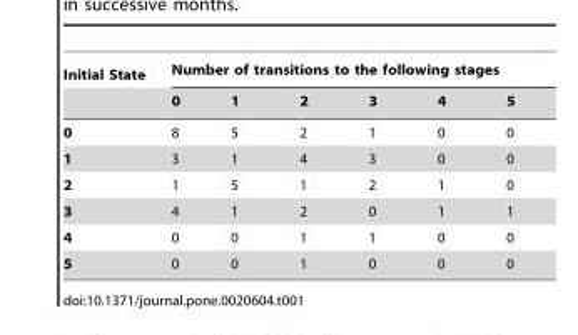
<table><thead><tr><td rowspan="2">Initial State</td><td colspan="6">Number of transitions to the following stages</td></tr><tr><td>0</td><td>1</td><td>2</td><td>3</td><td>4</td><td>5</td></tr></thead><tbody><tr><td>0</td><td>8</td><td>5</td><td>2</td><td>1</td><td>0</td><td>0</td></tr><tr><td>1</td><td>3</td><td>1</td><td>4</td><td>3</td><td>0</td><td>0</td></tr><tr><td>2</td><td>1</td><td>5</td><td>1</td><td>2</td><td>1</td><td>0</td></tr><tr><td>3</td><td>4</td><td>1</td><td>2</td><td>0</td><td>1</td><td>1</td></tr><tr><td>4</td><td>0</td><td>0</td><td>1</td><td>1</td><td>0</td><td>0</td></tr><tr><td>5</td><td>0</td><td>0</td><td>1</td><td>0</td><td>0</td><td>0</td></tr></tbody></table>